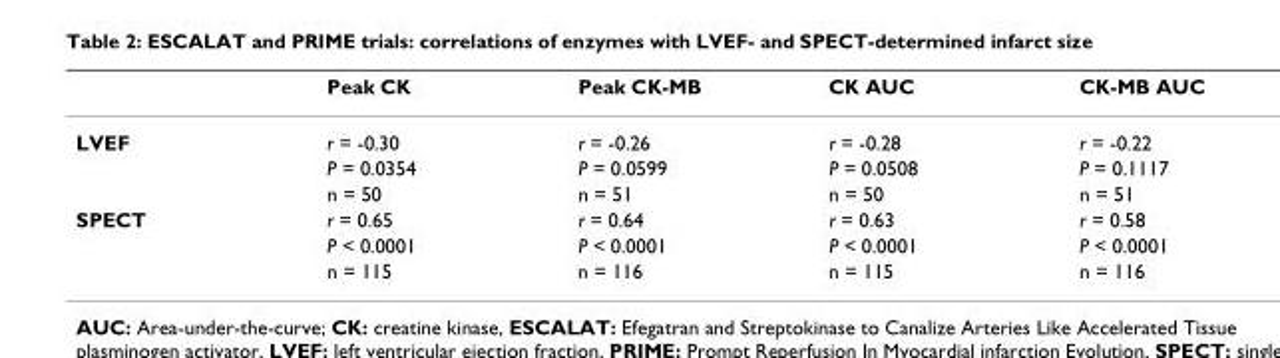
<table><thead><tr><td></td><td>Peak CK</td><td>Peak CK-MB</td><td>CK AUC</td><td>CK-MB AUC</td></tr></thead><tbody><tr><td rowspan="3">LVEF</td><td>r = -0.30</td><td>r = -0.26</td><td>r = -0.28</td><td>r = -0.22</td></tr><tr><td>P = 0.0354</td><td>P = 0.0599</td><td>P = 0.0508</td><td>P = 0.1117</td></tr><tr><td>n = 50</td><td>n = 51</td><td>n = 50</td><td>n = 51</td></tr><tr><td rowspan="3">SPECT</td><td>r = 0.65</td><td>r = 0.64</td><td>r = 0.63</td><td>r = 0.58</td></tr><tr><td>P &lt; 0.0001</td><td>P &lt; 0.0001</td><td>P &lt; 0.0001</td><td>P &lt; 0.0001</td></tr><tr><td>n = 115</td><td>n = 116</td><td>n = 115</td><td>n = 116</td></tr></tbody></table>